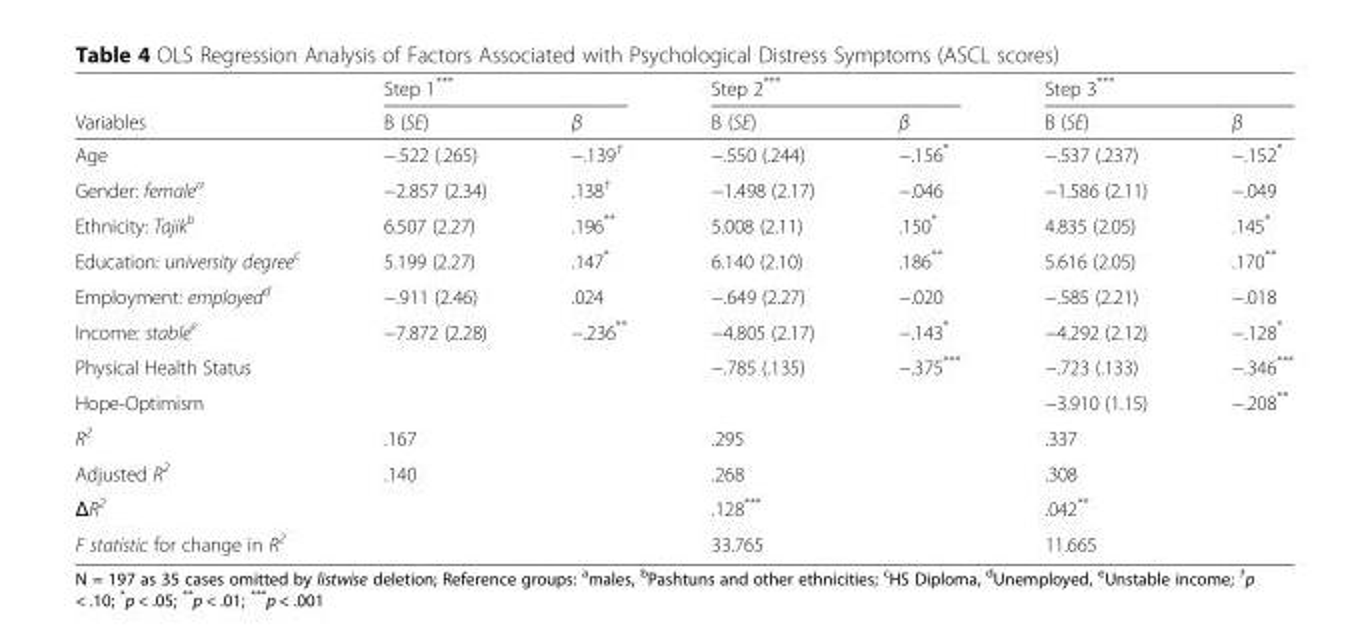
<table><thead><tr><td rowspan="2">Variables</td><td colspan="2">Step 1***</td><td colspan="2">Step 2***</td><td colspan="2">Step 3***</td></tr><tr><td>B (SE)</td><td>β</td><td>B (SE)</td><td>β</td><td>B (SE)</td><td>β</td></tr></thead><tbody><tr><td>Age</td><td>−.522 (.265)</td><td>−.139<sup>†</sup></td><td>−.550 (.244)</td><td>−.156*</td><td>−.537 (.237)</td><td>−.152*</td></tr><tr><td>Gender: female<sup>a</sup></td><td>−2.857 (2.34)</td><td>.138<sup>†</sup></td><td>−1.498 (2.17)</td><td>−.046</td><td>−1.586 (2.11)</td><td>−.049</td></tr><tr><td>Ethnicity: Tajik<sup>b</sup></td><td>6.507 (2.27)</td><td>.196**</td><td>5.008 (2.11)</td><td>.150*</td><td>4.835 (2.05)</td><td>.145*</td></tr><tr><td>Education: university degree<sup>c</sup></td><td>5.199 (2.27)</td><td>.147*</td><td>6.140 (2.10)</td><td>.186**</td><td>5.616 (2.05)</td><td>.170**</td></tr><tr><td>Employment: employed<sup>d</sup></td><td>−.911 (2.46)</td><td>.024</td><td>−.649 (2.27)</td><td>−.020</td><td>−.585 (2.21)</td><td>−.018</td></tr><tr><td>Income: stable<sup>e</sup></td><td>−7.872 (2.28)</td><td>−.236**</td><td>−4.805 (2.17)</td><td>−.143*</td><td>−4.292 (2.12)</td><td>−.128*</td></tr><tr><td>Physical Health Status</td><td></td><td></td><td>−.785 (.135)</td><td>−.375***</td><td>−.723 (.133)</td><td>−.346***</td></tr><tr><td>Hope-Optimism</td><td></td><td></td><td></td><td></td><td>−3.910 (1.15)</td><td>−.208**</td></tr><tr><td>R<sup>2</sup></td><td colspan="2">.167</td><td colspan="2">.295</td><td colspan="2">.337</td></tr><tr><td>Adjusted R<sup>2</sup></td><td colspan="2">.140</td><td colspan="2">.268</td><td colspan="2">.308</td></tr><tr><td>ΔR<sup>2</sup></td><td colspan="2"></td><td colspan="2">.128***</td><td colspan="2">.042**</td></tr><tr><td>F statistic for change in R<sup>2</sup></td><td colspan="2"></td><td colspan="2">33.765</td><td colspan="2">11.665</td></tr></tbody></table>